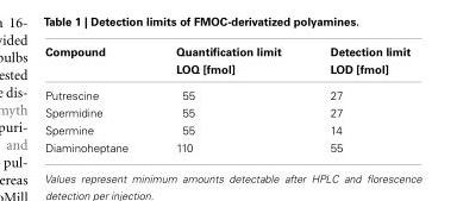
<table><thead><tr><td>Compound</td><td>Quantification limit LOQ [fmol]</td><td>Detection limit LOD [fmol]</td></tr></thead><tbody><tr><td>Putrescine</td><td>55</td><td>27</td></tr><tr><td>Spermidine</td><td>55</td><td>27</td></tr><tr><td>Spermine</td><td>55</td><td>14</td></tr><tr><td>Diaminoheptane</td><td>110</td><td>55</td></tr></tbody></table>